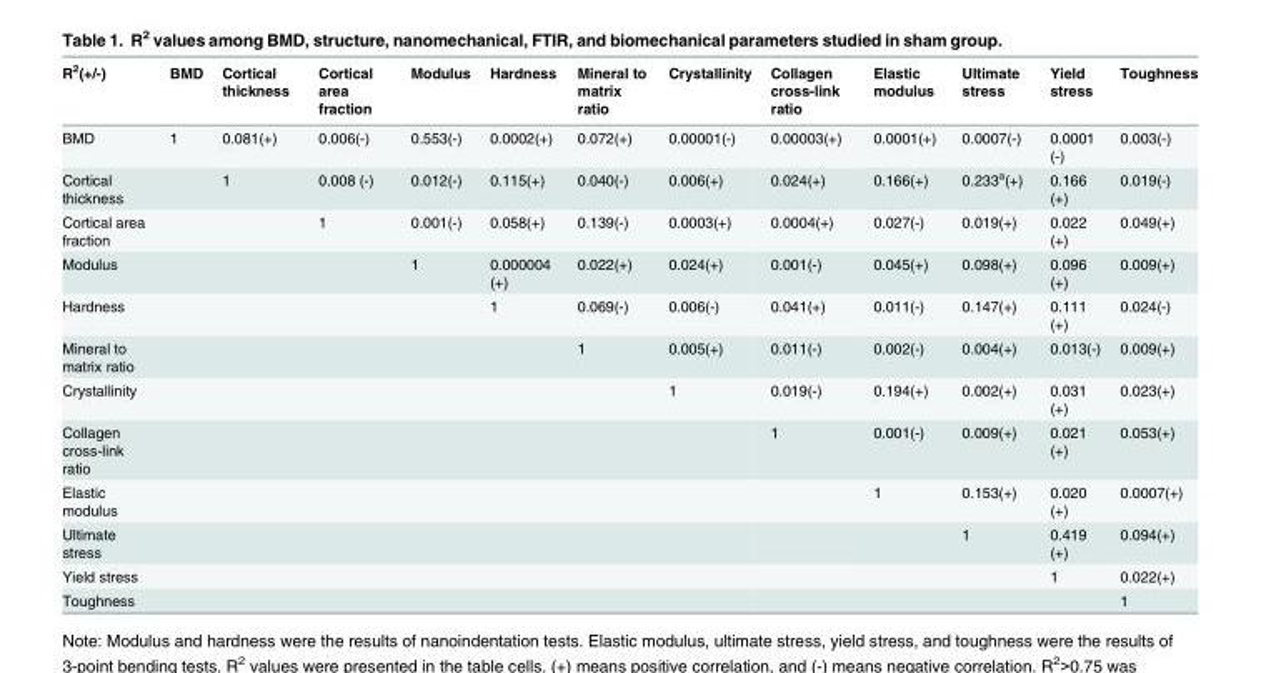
<table><thead><tr><td>R<sup>2</sup>(+/-)</td><td>BMD</td><td>Cortical thickness</td><td>Cortical area fraction</td><td>Modulus</td><td>Hardness</td><td>Mineral to matrix ratio</td><td>Crystallinity</td><td>Collagen cross-link ratio</td><td>Elastic modulus</td><td>Ultimate stress</td><td>Yield stress</td><td>Toughness</td></tr></thead><tbody><tr><td>BMD</td><td>1</td><td>0.081(+)</td><td>0.006(-)</td><td>0.553(-)</td><td>0.0002(+)</td><td>0.072(+)</td><td>0.00001(-)</td><td>0.00003(+)</td><td>0.0001(+)</td><td>0.0007(-)</td><td>0.0001 (-)</td><td>0.003(-)</td></tr><tr><td>Cortical thickness</td><td></td><td>1</td><td>0.008 (-)</td><td>0.012(-)</td><td>0.115(+)</td><td>0.040(-)</td><td>0.006(+)</td><td>0.024(+)</td><td>0.166(+)</td><td>0.233<sup>a</sup>(+)</td><td>0.166 (+)</td><td>0.019(-)</td></tr><tr><td>Cortical area fraction</td><td></td><td></td><td>1</td><td>0.001(-)</td><td>0.058(+)</td><td>0.139(-)</td><td>0.0003(+)</td><td>0.0004(+)</td><td>0.027(-)</td><td>0.019(+)</td><td>0.022 (+)</td><td>0.049(+)</td></tr><tr><td>Modulus</td><td></td><td></td><td></td><td>1</td><td>0.000004 (+)</td><td>0.022(+)</td><td>0.024(+)</td><td>0.001(-)</td><td>0.045(+)</td><td>0.098(+)</td><td>0.096 (+)</td><td>0.009(+)</td></tr><tr><td>Hardness</td><td></td><td></td><td></td><td></td><td>1</td><td>0.069(-)</td><td>0.006(-)</td><td>0.041(+)</td><td>0.011(-)</td><td>0.147(+)</td><td>0.111 (+)</td><td>0.024(-)</td></tr><tr><td>Mineral to matrix ratio</td><td></td><td></td><td></td><td></td><td></td><td>1</td><td>0.005(+)</td><td>0.011(-)</td><td>0.002(-)</td><td>0.004(+)</td><td>0.013(-)</td><td>0.009(+)</td></tr><tr><td>Crystallinity</td><td></td><td></td><td></td><td></td><td></td><td></td><td>1</td><td>0.019(-)</td><td>0.194(+)</td><td>0.002(+)</td><td>0.031 (+)</td><td>0.023(+)</td></tr><tr><td>Collagen cross-link ratio</td><td></td><td></td><td></td><td></td><td></td><td></td><td></td><td>1</td><td>0.001(-)</td><td>0.009(+)</td><td>0.021 (+)</td><td>0.053(+)</td></tr><tr><td>Elastic modulus</td><td></td><td></td><td></td><td></td><td></td><td></td><td></td><td></td><td>1</td><td>0.153(+)</td><td>0.020 (+)</td><td>0.0007(+)</td></tr><tr><td>Ultimate stress</td><td></td><td></td><td></td><td></td><td></td><td></td><td></td><td></td><td></td><td>1</td><td>0.419 (+)</td><td>0.094(+)</td></tr><tr><td>Yield stress</td><td></td><td></td><td></td><td></td><td></td><td></td><td></td><td></td><td></td><td></td><td>1</td><td>0.022(+)</td></tr><tr><td>Toughness</td><td></td><td></td><td></td><td></td><td></td><td></td><td></td><td></td><td></td><td></td><td></td><td>1</td></tr></tbody></table>